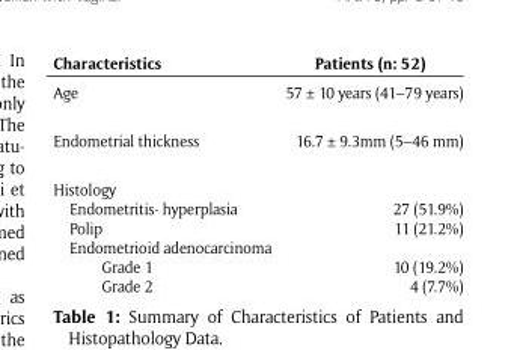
<table><thead><tr><td>Characteristics</td><td>Patients (n: 52)</td></tr></thead><tbody><tr><td>Age</td><td>57 ± 10 years (41–79 years)</td></tr><tr><td>Endometrial thickness</td><td>16.7 ± 9.3mm (5–46 mm)</td></tr><tr><td colspan="2">Histology</td></tr><tr><td>Endometritis- hyperplasia</td><td>27 (51.9%)</td></tr><tr><td>Polip</td><td>11 (21.2%)</td></tr><tr><td colspan="2">Endometrioid adenocarcinoma</td></tr><tr><td>Grade 1</td><td>10 (19.2%)</td></tr><tr><td>Grade 2</td><td>4 (7.7%)</td></tr></tbody></table>